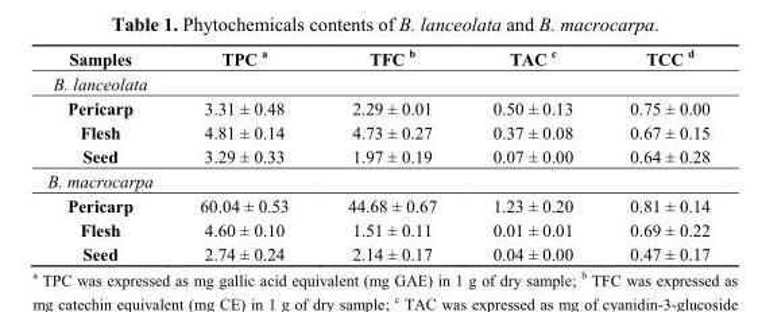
<table><thead><tr><td>Samples</td><td>TPC <sup>a</sup></td><td>TFC <sup>b</sup></td><td>TAC <sup>c</sup></td><td>TCC <sup>d</sup></td></tr></thead><tbody><tr><td colspan="5">B. lanceolata</td></tr><tr><td>Pericarp</td><td>3.31 ± 0.48</td><td>2.29 ± 0.01</td><td>0.50 ± 0.13</td><td>0.75 ± 0.00</td></tr><tr><td>Flesh</td><td>4.81 ± 0.14</td><td>4.73 ± 0.27</td><td>0.37 ± 0.08</td><td>0.67 ± 0.15</td></tr><tr><td>Seed</td><td>3.29 ± 0.33</td><td>1.97 ± 0.19</td><td>0.07 ± 0.00</td><td>0.64 ± 0.28</td></tr><tr><td colspan="5">B. macrocarpa</td></tr><tr><td>Pericarp</td><td>60.04 ± 0.53</td><td>44.68 ± 0.67</td><td>1.23 ± 0.20</td><td>0.81 ± 0.14</td></tr><tr><td>Flesh</td><td>4.60 ± 0.10</td><td>1.51 ± 0.11</td><td>0.01 ± 0.01</td><td>0.69 ± 0.22</td></tr><tr><td>Seed</td><td>2.74 ± 0.24</td><td>2.14 ± 0.17</td><td>0.04 ± 0.00</td><td>0.47 ± 0.17</td></tr></tbody></table>